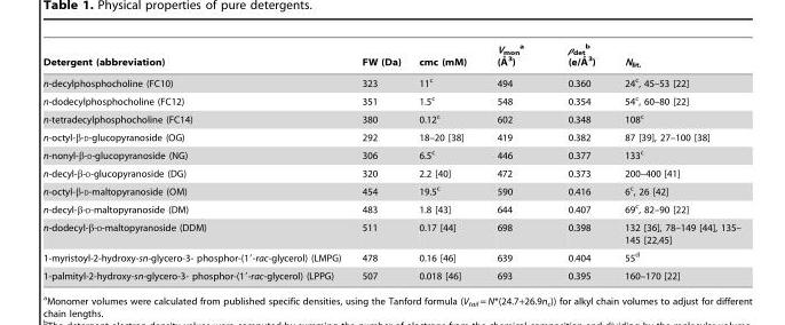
<table><thead><tr><td>Detergent (abbreviation)</td><td>FW (Da)</td><td>cmc (mM)</td><td>Vmon a (A˚ 3)</td><td>rdet b (e/A˚ 3)</td><td>N<sub>lit.</sub></td></tr></thead><tbody><tr><td>n-decylphosphocholine (FC10)</td><td>323</td><td>11<sup>c</sup></td><td>494</td><td>0.360</td><td>24<sup>c</sup>, 45–53 [22]</td></tr><tr><td>n-dodecylphosphocholine (FC12)</td><td>351</td><td>1.5<sup>c</sup></td><td>548</td><td>0.354</td><td>54<sup>c</sup>, 60–80 [22]</td></tr><tr><td>n-tetradecylphosphocholine (FC14)</td><td>380</td><td>0.12<sup>c</sup></td><td>602</td><td>0.348</td><td>108<sup>c</sup></td></tr><tr><td>n-octyl-β-D-glucopyranoside (OG)</td><td>292</td><td>18–20 [38]</td><td>419</td><td>0.382</td><td>87 [39], 27–100 [38]</td></tr><tr><td>n-nonyl-β-D-glucopyranoside (NG)</td><td>306</td><td>6.5<sup>c</sup></td><td>446</td><td>0.377</td><td>133<sup>c</sup></td></tr><tr><td>n-decyl-β-D-glucopyranoside (DG)</td><td>320</td><td>2.2 [40]</td><td>472</td><td>0.373</td><td>200–400 [41]</td></tr><tr><td>n-octyl-β-D-maltopyranoside (OM)</td><td>454</td><td>19.5<sup>c</sup></td><td>590</td><td>0.416</td><td>6<sup>c</sup>, 26 [42]</td></tr><tr><td>n-decyl-β-D-maltopyranoside (DM)</td><td>483</td><td>1.8 [43]</td><td>644</td><td>0.407</td><td>69<sup>c</sup>, 82–90 [22]</td></tr><tr><td>n-dodecyl-β-D-maltopyranoside (DDM)</td><td>511</td><td>0.17 [44]</td><td>698</td><td>0.398</td><td>132 [36], 78–149 [44], 135– 145 [22,45]</td></tr><tr><td>1-myristoyl-2-hydroxy-sn-glycero-3- phosphor-(1′-rac-glycerol) (LMPG)</td><td>478</td><td>0.16 [46]</td><td>639</td><td>0.404</td><td>55<sup>d</sup></td></tr><tr><td>1-palmityl-2-hydroxy-sn-glycero-3- phosphor-(1′-rac-glycerol) (LPPG)</td><td>507</td><td>0.018 [46]</td><td>693</td><td>0.395</td><td>160–170 [22]</td></tr></tbody></table>